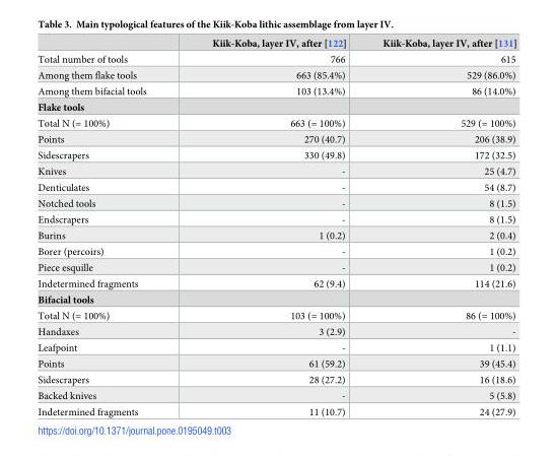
<table><thead><tr><td></td><td>Kiik-Koba, layer IV, after [122]</td><td>Kiik-Koba, layer IV, after [131]</td></tr></thead><tbody><tr><td>Total number of tools</td><td>766</td><td>615</td></tr><tr><td>Among them flake tools</td><td>663 (85.4%)</td><td>529 (86.0%)</td></tr><tr><td>Among them bifacial tools</td><td>103 (13.4%)</td><td>86 (14.0%)</td></tr><tr><td colspan="3">Flake tools</td></tr><tr><td>Total N (= 100%)</td><td>663 (= 100%)</td><td>529 (= 100%)</td></tr><tr><td>Points</td><td>270 (40.7)</td><td>206 (38.9)</td></tr><tr><td>Sidescrapers</td><td>330 (49.8)</td><td>172 (32.5)</td></tr><tr><td>Knives</td><td>-</td><td>25 (4.7)</td></tr><tr><td>Denticulates</td><td>-</td><td>54 (8.7)</td></tr><tr><td>Notched tools</td><td>-</td><td>8 (1.5)</td></tr><tr><td>Endscrapers</td><td>-</td><td>8 (1.5)</td></tr><tr><td>Burins</td><td>1 (0.2)</td><td>2 (0.4)</td></tr><tr><td>Borer (percoirs)</td><td>-</td><td>1 (0.2)</td></tr><tr><td>Piece esquille</td><td>-</td><td>1 (0.2)</td></tr><tr><td>Indetermined fragments</td><td>62 (9.4)</td><td>114 (21.6)</td></tr><tr><td colspan="3">Bifacial tools</td></tr><tr><td>Total N (= 100%)</td><td>103 (= 100%)</td><td>86 (= 100%)</td></tr><tr><td>Handaxes</td><td>3 (2.9)</td><td>-</td></tr><tr><td>Leafpoint</td><td>-</td><td>1 (1.1)</td></tr><tr><td>Points</td><td>61 (59.2)</td><td>39 (45.4)</td></tr><tr><td>Sidescrapers</td><td>28 (27.2)</td><td>16 (18.6)</td></tr><tr><td>Backed knives</td><td>-</td><td>5 (5.8)</td></tr><tr><td>Indetermined fragments</td><td>11 (10.7)</td><td>24 (27.9)</td></tr></tbody></table>